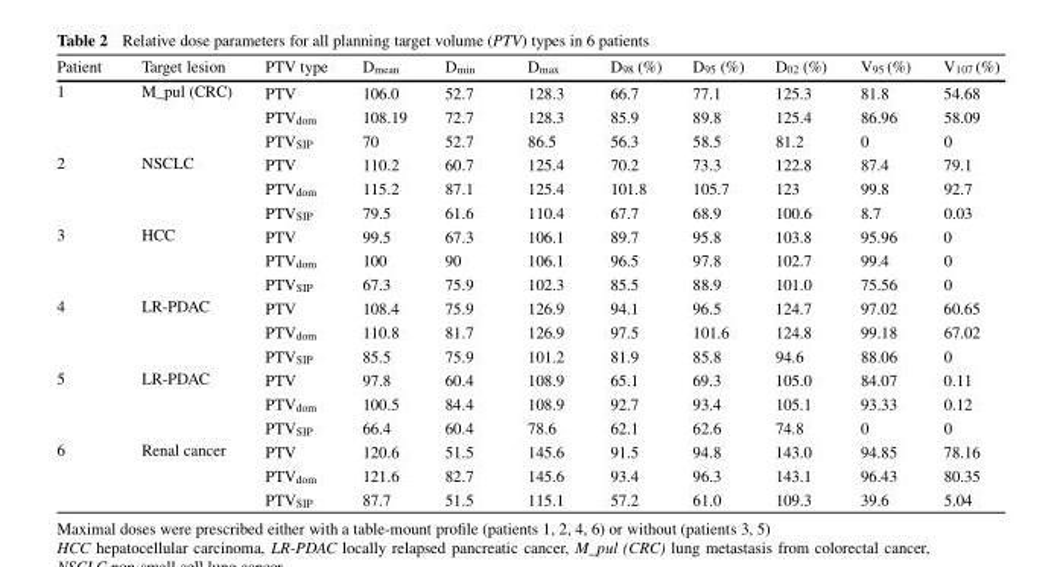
<table><thead><tr><td>Patient</td><td>Target lesion</td><td>PTV type</td><td>D<sub>mean</sub></td><td>D<sub>min</sub></td><td>D<sub>max</sub></td><td>D<sub>98</sub> (%)</td><td>D<sub>95</sub> (%)</td><td>D<sub>02</sub> (%)</td><td>V<sub>95</sub> (%)</td><td>V<sub>107</sub> (%)</td></tr></thead><tbody><tr><td rowspan="3">1</td><td rowspan="3">M_pul (CRC)</td><td>PTV</td><td>106.0</td><td>52.7</td><td>128.3</td><td>66.7</td><td>77.1</td><td>125.3</td><td>81.8</td><td>54.68</td></tr><tr><td>PTV<sub>dom</sub></td><td>108.19</td><td>72.7</td><td>128.3</td><td>85.9</td><td>89.8</td><td>125.4</td><td>86.96</td><td>58.09</td></tr><tr><td>PTV<sub>SIP</sub></td><td>70</td><td>52.7</td><td>86.5</td><td>56.3</td><td>58.5</td><td>81.2</td><td>0</td><td>0</td></tr><tr><td rowspan="3">2</td><td rowspan="3">NSCLC</td><td>PTV</td><td>110.2</td><td>60.7</td><td>125.4</td><td>70.2</td><td>73.3</td><td>122.8</td><td>87.4</td><td>79.1</td></tr><tr><td>PTV<sub>dom</sub></td><td>115.2</td><td>87.1</td><td>125.4</td><td>101.8</td><td>105.7</td><td>123</td><td>99.8</td><td>92.7</td></tr><tr><td>PTV<sub>SIP</sub></td><td>79.5</td><td>61.6</td><td>110.4</td><td>67.7</td><td>68.9</td><td>100.6</td><td>8.7</td><td>0.03</td></tr><tr><td rowspan="3">3</td><td rowspan="3">HCC</td><td>PTV</td><td>99.5</td><td>67.3</td><td>106.1</td><td>89.7</td><td>95.8</td><td>103.8</td><td>95.96</td><td>0</td></tr><tr><td>PTV<sub>dom</sub></td><td>100</td><td>90</td><td>106.1</td><td>96.5</td><td>97.8</td><td>102.7</td><td>99.4</td><td>0</td></tr><tr><td>PTV<sub>SIP</sub></td><td>67.3</td><td>75.9</td><td>102.3</td><td>85.5</td><td>88.9</td><td>101.0</td><td>75.56</td><td>0</td></tr><tr><td rowspan="3">4</td><td rowspan="3">LR-PDAC</td><td>PTV</td><td>108.4</td><td>75.9</td><td>126.9</td><td>94.1</td><td>96.5</td><td>124.7</td><td>97.02</td><td>60.65</td></tr><tr><td>PTV<sub>dom</sub></td><td>110.8</td><td>81.7</td><td>126.9</td><td>97.5</td><td>101.6</td><td>124.8</td><td>99.18</td><td>67.02</td></tr><tr><td>PTV<sub>SIP</sub></td><td>85.5</td><td>75.9</td><td>101.2</td><td>81.9</td><td>85.8</td><td>94.6</td><td>88.06</td><td>0</td></tr><tr><td rowspan="3">5</td><td rowspan="3">LR-PDAC</td><td>PTV</td><td>97.8</td><td>60.4</td><td>108.9</td><td>65.1</td><td>69.3</td><td>105.0</td><td>84.07</td><td>0.11</td></tr><tr><td>PTV<sub>dom</sub></td><td>100.5</td><td>84.4</td><td>108.9</td><td>92.7</td><td>93.4</td><td>105.1</td><td>93.33</td><td>0.12</td></tr><tr><td>PTV<sub>SIP</sub></td><td>66.4</td><td>60.4</td><td>78.6</td><td>62.1</td><td>62.6</td><td>74.8</td><td>0</td><td>0</td></tr><tr><td rowspan="3">6</td><td rowspan="3">Renal cancer</td><td>PTV</td><td>120.6</td><td>51.5</td><td>145.6</td><td>91.5</td><td>94.8</td><td>143.0</td><td>94.85</td><td>78.16</td></tr><tr><td>PTV<sub>dom</sub></td><td>121.6</td><td>82.7</td><td>145.6</td><td>93.4</td><td>96.3</td><td>143.1</td><td>96.43</td><td>80.35</td></tr><tr><td>PTV<sub>SIP</sub></td><td>87.7</td><td>51.5</td><td>115.1</td><td>57.2</td><td>61.0</td><td>109.3</td><td>39.6</td><td>5.04</td></tr></tbody></table>